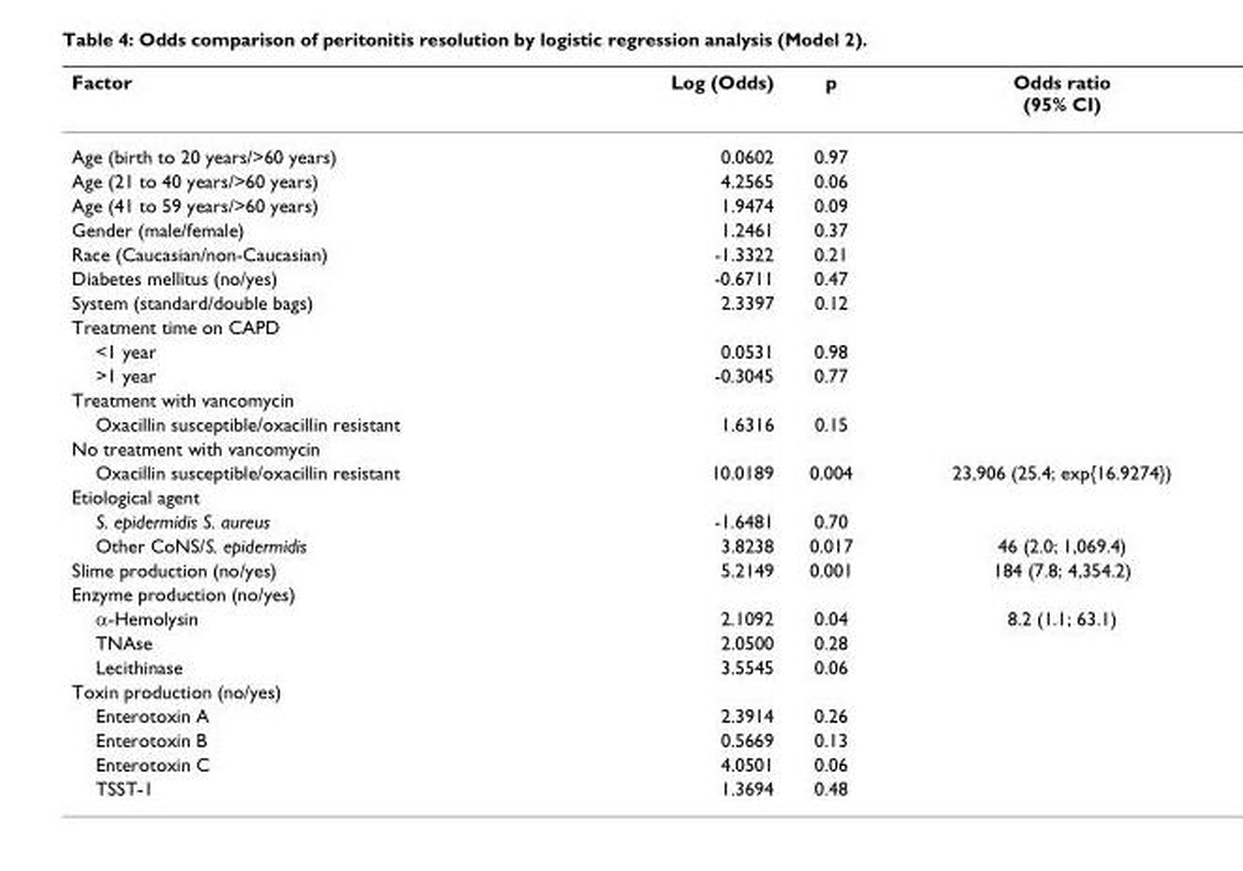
<table><thead><tr><td>Factor</td><td>Log (Odds)</td><td>p</td><td>Odds ratio (95% CI)</td></tr></thead><tbody><tr><td>Age (birth to 20 years/&gt;60 years)</td><td>0.0602</td><td>0.97</td><td></td></tr><tr><td>Age (21 to 40 years/&gt;60 years)</td><td>4.2565</td><td>0.06</td><td></td></tr><tr><td>Age (41 to 59 years/&gt;60 years)</td><td>1.9474</td><td>0.09</td><td></td></tr><tr><td>Gender (male/female)</td><td>1.2461</td><td>0.37</td><td></td></tr><tr><td>Race (Caucasian/non-Caucasian)</td><td>-1.3322</td><td>0.21</td><td></td></tr><tr><td>Diabetes mellitus (no/yes)</td><td>-0.6711</td><td>0.47</td><td></td></tr><tr><td>System (standard/double bags)</td><td>2.3397</td><td>0.12</td><td></td></tr><tr><td colspan="4">Treatment time on CAPD</td></tr><tr><td>&lt;1 year</td><td>0.0531</td><td>0.98</td><td></td></tr><tr><td>&gt;1 year</td><td>-0.3045</td><td>0.77</td><td></td></tr><tr><td colspan="4">Treatment with vancomycin</td></tr><tr><td>Oxacillin susceptible/oxacillin resistant</td><td>1.6316</td><td>0.15</td><td></td></tr><tr><td colspan="4">No treatment with vancomycin</td></tr><tr><td>Oxacillin susceptible/oxacillin resistant</td><td>10.0189</td><td>0.004</td><td>23,906 (25.4; exp{16.9274})</td></tr><tr><td colspan="4">Etiological agent</td></tr><tr><td>S. epidermidis S. aureus</td><td>-1.6481</td><td>0.70</td><td></td></tr><tr><td>Other CoNS/S. epidermidis</td><td>3.8238</td><td>0.017</td><td>46 (2.0; 1,069.4)</td></tr><tr><td>Slime production (no/yes)</td><td>5.2149</td><td>0.001</td><td>184 (7.8; 4,354.2)</td></tr><tr><td colspan="4">Enzyme production (no/yes)</td></tr><tr><td>α-Hemolysin</td><td>2.1092</td><td>0.04</td><td>8.2 (1.1; 63.1)</td></tr><tr><td>TNAse</td><td>2.0500</td><td>0.28</td><td></td></tr><tr><td>Lecithinase</td><td>3.5545</td><td>0.06</td><td></td></tr><tr><td colspan="4">Toxin production (no/yes)</td></tr><tr><td>Enterotoxin A</td><td>2.3914</td><td>0.26</td><td></td></tr><tr><td>Enterotoxin B</td><td>0.5669</td><td>0.13</td><td></td></tr><tr><td>Enterotoxin C</td><td>4.0501</td><td>0.06</td><td></td></tr><tr><td>TSST-1</td><td>1.3694</td><td>0.48</td><td></td></tr></tbody></table>